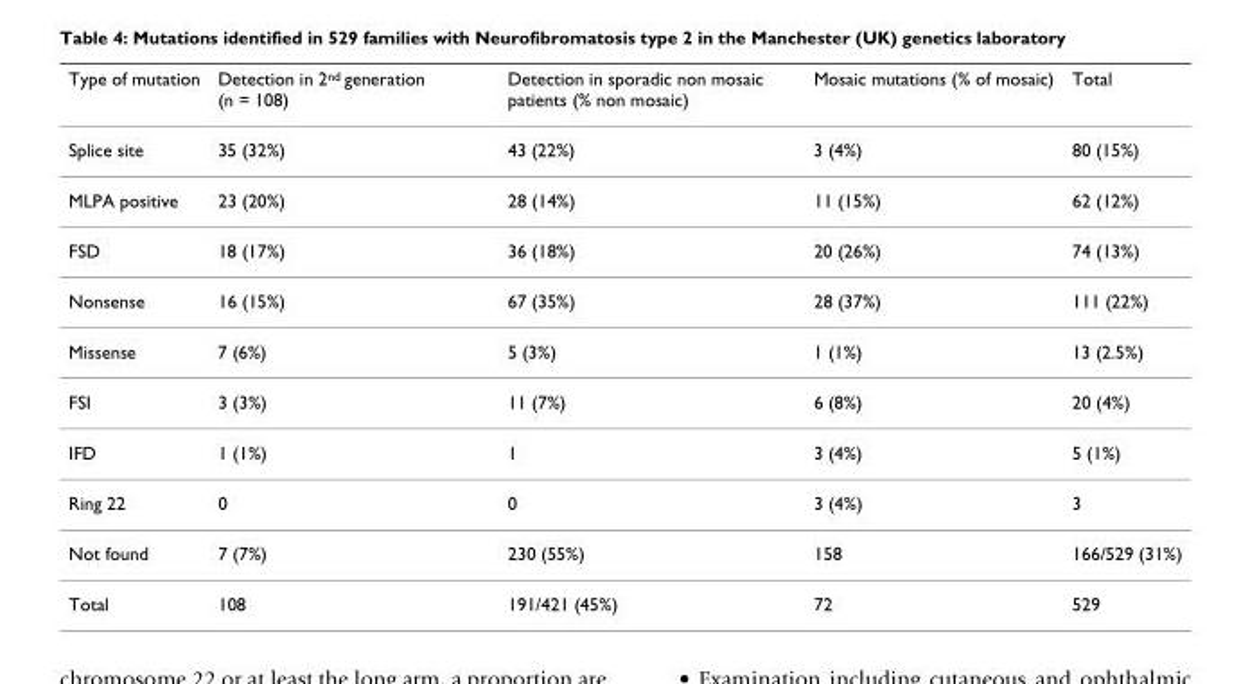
<table><thead><tr><td>Type of mutation</td><td>Detection in 2<sup>nd</sup> generation (n = 108)</td><td>Detection in sporadic non mosaic patients (% non mosaic)</td><td>Mosaic mutations (% of mosaic)</td><td>Total</td></tr></thead><tbody><tr><td>Splice site</td><td>35 (32%)</td><td>43 (22%)</td><td>3 (4%)</td><td>80 (15%)</td></tr><tr><td>MLPA positive</td><td>23 (20%)</td><td>28 (14%)</td><td>11 (15%)</td><td>62 (12%)</td></tr><tr><td>FSD</td><td>18 (17%)</td><td>36 (18%)</td><td>20 (26%)</td><td>74 (13%)</td></tr><tr><td>Nonsense</td><td>16 (15%)</td><td>67 (35%)</td><td>28 (37%)</td><td>111 (22%)</td></tr><tr><td>Missense</td><td>7 (6%)</td><td>5 (3%)</td><td>1 (1%)</td><td>13 (2.5%)</td></tr><tr><td>FSI</td><td>3 (3%)</td><td>11 (7%)</td><td>6 (8%)</td><td>20 (4%)</td></tr><tr><td>IFD</td><td>1 (1%)</td><td>1</td><td>3 (4%)</td><td>5 (1%)</td></tr><tr><td>Ring 22</td><td>0</td><td>0</td><td>3 (4%)</td><td>3</td></tr><tr><td>Not found</td><td>7 (7%)</td><td>230 (55%)</td><td>158</td><td>166/529 (31%)</td></tr><tr><td>Total</td><td>108</td><td>191/421 (45%)</td><td>72</td><td>529</td></tr></tbody></table>